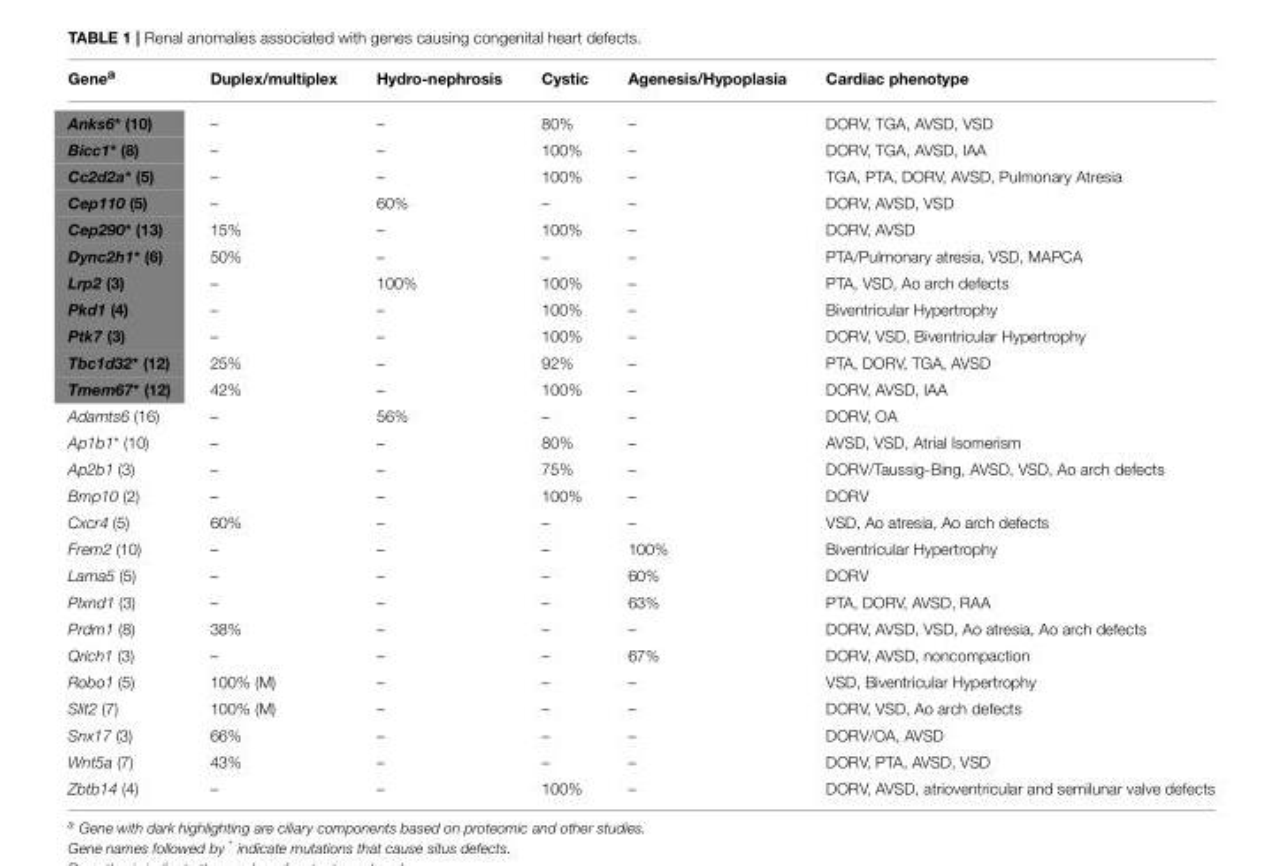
<table><thead><tr><td>Gene<sup>a</sup></td><td>Duplex/multiplex</td><td>Hydro-nephrosis</td><td>Cystic</td><td>Agenesis/Hypoplasia</td><td>Cardiac phenotype</td></tr></thead><tbody><tr><td>Anks6* (10)</td><td>–</td><td>–</td><td>80%</td><td>–</td><td>DORV, TGA, AVSD, VSD</td></tr><tr><td>Bicc1* (8)</td><td>–</td><td>–</td><td>100%</td><td>–</td><td>DORV, TGA, AVSD, IAA</td></tr><tr><td>Cc2d2a* (5)</td><td>–</td><td>–</td><td>100%</td><td>–</td><td>TGA, PTA, DORV, AVSD, Pulmonary Atresia</td></tr><tr><td>Cep110 (5)</td><td>–</td><td>60%</td><td>–</td><td>–</td><td>DORV, AVSD, VSD</td></tr><tr><td>Cep290* (13)</td><td>15%</td><td>–</td><td>100%</td><td>–</td><td>DORV, AVSD</td></tr><tr><td>Dync2h1* (6)</td><td>50%</td><td>–</td><td>–</td><td>–</td><td>PTA/Pulmonary atresia, VSD, MAPCA</td></tr><tr><td>Lrp2 (3)</td><td>–</td><td>100%</td><td>100%</td><td>–</td><td>PTA, VSD, Ao arch defects</td></tr><tr><td>Pkd1 (4)</td><td>–</td><td>–</td><td>100%</td><td>–</td><td>Biventricular Hypertrophy</td></tr><tr><td>Ptk7 (3)</td><td>–</td><td>–</td><td>100%</td><td>–</td><td>DORV, VSD, Biventricular Hypertrophy</td></tr><tr><td>Tbc1d32* (12)</td><td>25%</td><td>–</td><td>92%</td><td>–</td><td>PTA, DORV, TGA, AVSD</td></tr><tr><td>Tmem67* (12)</td><td>42%</td><td>–</td><td>100%</td><td>–</td><td>DORV, AVSD, IAA</td></tr><tr><td>Adamts6 (16)</td><td>–</td><td>56%</td><td>–</td><td>–</td><td>DORV, OA</td></tr><tr><td>Ap1b1* (10)</td><td>–</td><td>–</td><td>80%</td><td>–</td><td>AVSD, VSD, Atrial Isomerism</td></tr><tr><td>Ap2b1 (3)</td><td>–</td><td>–</td><td>75%</td><td>–</td><td>DORV/Taussig-Bing, AVSD, VSD, Ao arch defects</td></tr><tr><td>Bmp10 (2)</td><td>–</td><td>–</td><td>100%</td><td>–</td><td>DORV</td></tr><tr><td>Cxcr4 (5)</td><td>60%</td><td>–</td><td>–</td><td>–</td><td>VSD, Ao atresia, Ao arch defects</td></tr><tr><td>Frem2 (10)</td><td>–</td><td>–</td><td>–</td><td>100%</td><td>Biventricular Hypertrophy</td></tr><tr><td>Lama5 (5)</td><td>–</td><td>–</td><td>–</td><td>60%</td><td>DORV</td></tr><tr><td>Plxnd1 (3)</td><td>–</td><td>–</td><td>–</td><td>63%</td><td>PTA, DORV, AVSD, RAA</td></tr><tr><td>Prdm1 (8)</td><td>38%</td><td>–</td><td>–</td><td>–</td><td>DORV, AVSD, VSD, Ao atresia, Ao arch defects</td></tr><tr><td>Qrich1 (3)</td><td>–</td><td>–</td><td>–</td><td>67%</td><td>DORV, AVSD, noncompaction</td></tr><tr><td>Robo1 (5)</td><td>100% (M)</td><td>–</td><td>–</td><td>–</td><td>VSD, Biventricular Hypertrophy</td></tr><tr><td>Slit2 (7)</td><td>100% (M)</td><td>–</td><td>–</td><td>–</td><td>DORV, VSD, Ao arch defects</td></tr><tr><td>Snx17 (3)</td><td>66%</td><td>–</td><td>–</td><td>–</td><td>DORV/OA, AVSD</td></tr><tr><td>Wnt5a (7)</td><td>43%</td><td>–</td><td>–</td><td>–</td><td>DORV, PTA, AVSD, VSD</td></tr><tr><td>Zbtb14 (4)</td><td>–</td><td>–</td><td>100%</td><td>–</td><td>DORV, AVSD, atrioventricular and semilunar valve defects</td></tr></tbody></table>